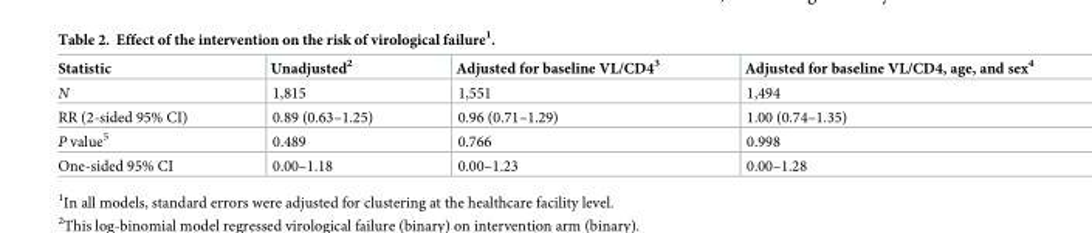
<table><thead><tr><td>Statistic</td><td>Unadjusted<sup>2</sup></td><td>Adjusted for baseline VL/CD4<sup>3</sup></td><td>Adjusted for baseline VL/CD4, age, and sex<sup>4</sup></td></tr></thead><tbody><tr><td>N</td><td>1,815</td><td>1,551</td><td>1,494</td></tr><tr><td>RR (2-sided 95% CI)</td><td>0.89 (0.63–1.25)</td><td>0.96 (0.71–1.29)</td><td>1.00 (0.74–1.35)</td></tr><tr><td>P value<sup>5</sup></td><td>0.489</td><td>0.766</td><td>0.998</td></tr><tr><td>One-sided 95% CI</td><td>0.00–1.18</td><td>0.00–1.23</td><td>0.00–1.28</td></tr></tbody></table>